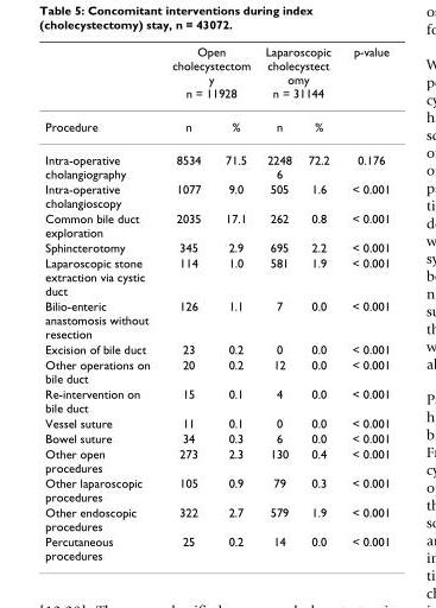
<table><thead><tr><td rowspan="2">Procedure</td><td colspan="2">Open cholecystectom y n = 11928</td><td colspan="2">Laparoscopic cholecystect omy n = 31144</td><td rowspan="2">p-value</td></tr><tr><td>n</td><td>%</td><td>n</td><td>%</td></tr></thead><tbody><tr><td>Intra-operative cholangiography</td><td>8534</td><td>71.5</td><td>2248 6</td><td>72.2</td><td>0.176</td></tr><tr><td>Intra-operative cholangioscopy</td><td>1077</td><td>9.0</td><td>505</td><td>1.6</td><td>&lt; 0.001</td></tr><tr><td>Common bile duct exploration</td><td>2035</td><td>17.1</td><td>262</td><td>0.8</td><td>&lt; 0.001</td></tr><tr><td>Sphincterotomy</td><td>345</td><td>2.9</td><td>695</td><td>2.2</td><td>&lt; 0.001</td></tr><tr><td>Laparoscopic stone extraction via cystic duct</td><td>114</td><td>1.0</td><td>581</td><td>1.9</td><td>&lt; 0.001</td></tr><tr><td>Bilio-enteric anastomosis without resection</td><td>126</td><td>1.1</td><td>7</td><td>0.0</td><td>&lt; 0.001</td></tr><tr><td>Excision of bile duct</td><td>23</td><td>0.2</td><td>0</td><td>0.0</td><td>&lt; 0.001</td></tr><tr><td>Other operations on bile duct</td><td>20</td><td>0.2</td><td>12</td><td>0.0</td><td>&lt; 0.001</td></tr><tr><td>Re-intervention on bile duct</td><td>15</td><td>0.1</td><td>4</td><td>0.0</td><td>&lt; 0.001</td></tr><tr><td>Vessel suture</td><td>11</td><td>0.1</td><td>0</td><td>0.0</td><td>&lt; 0.001</td></tr><tr><td>Bowel suture</td><td>34</td><td>0.3</td><td>6</td><td>0.0</td><td>&lt; 0.001</td></tr><tr><td>Other open procedures</td><td>273</td><td>2.3</td><td>130</td><td>0.4</td><td>&lt; 0.001</td></tr><tr><td>Other laparoscopic procedures</td><td>105</td><td>0.9</td><td>79</td><td>0.3</td><td>&lt; 0.001</td></tr><tr><td>Other endoscopic procedures</td><td>322</td><td>2.7</td><td>579</td><td>1.9</td><td>&lt; 0.001</td></tr><tr><td>Percutaneous procedures</td><td>25</td><td>0.2</td><td>14</td><td>0.0</td><td>&lt; 0.001</td></tr></tbody></table>